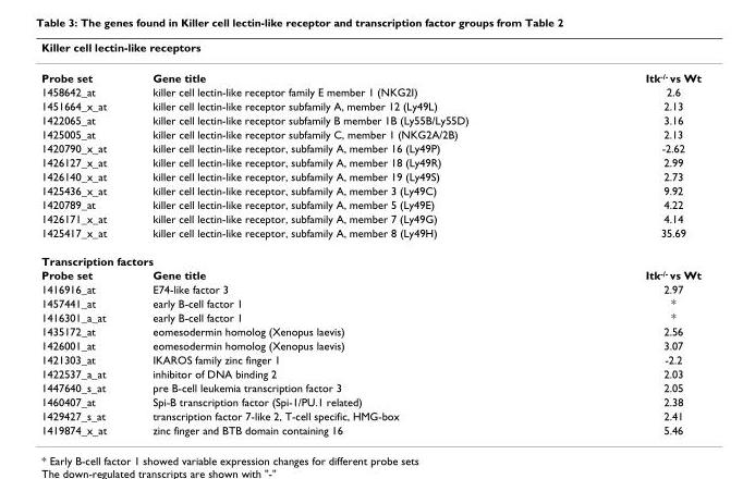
<table><thead><tr><td colspan="3">Killer cell lectin-like receptors</td></tr><tr><td>Probe set</td><td>Gene title</td><td>Itk<sup>-/-</sup> vs Wt</td></tr></thead><tbody><tr><td>1458642_at</td><td>killer cell lectin-like receptor family E member 1 (NKG2I)</td><td>2.6</td></tr><tr><td>1451664_x_at</td><td>killer cell lectin-like receptor subfamily A, member 12 (Ly49L)</td><td>2.13</td></tr><tr><td>1422065_at</td><td>killer cell lectin-like receptor subfamily B member 1B (Ly55B/Ly55D)</td><td>3.16</td></tr><tr><td>1425005_at</td><td>killer cell lectin-like receptor subfamily C, member 1 (NKG2A/2B)</td><td>2.13</td></tr><tr><td>1420790_x_at</td><td>killer cell lectin-like receptor, subfamily A, member 16 (Ly49P)</td><td>-2.62</td></tr><tr><td>1426127_x_at</td><td>killer cell lectin-like receptor, subfamily A, member 18 (Ly49R)</td><td>2.99</td></tr><tr><td>1426140_x_at</td><td>killer cell lectin-like receptor, subfamily A, member 19 (Ly49S)</td><td>2.73</td></tr><tr><td>1425436_x_at</td><td>killer cell lectin-like receptor, subfamily A, member 3 (Ly49C)</td><td>9.92</td></tr><tr><td>1420789_at</td><td>killer cell lectin-like receptor, subfamily A, member 5 (Ly49E)</td><td>4.22</td></tr><tr><td>1426171_x_at</td><td>killer cell lectin-like receptor, subfamily A, member 7 (Ly49G)</td><td>4.14</td></tr><tr><td>1425417_x_at</td><td>killer cell lectin-like receptor, subfamily A, member 8 (Ly49H)</td><td>35.69</td></tr><tr><td colspan="3">Transcription factors</td></tr><tr><td>Probe set</td><td>Gene title</td><td>Itk<sup>-/-</sup> vs Wt</td></tr><tr><td>1416916_at</td><td>E74-like factor 3</td><td>2.97</td></tr><tr><td>1457441_at</td><td>early B-cell factor 1</td><td>*</td></tr><tr><td>1416301_a_at</td><td>early B-cell factor 1</td><td>*</td></tr><tr><td>1435172_at</td><td>eomesodermin homolog (Xenopus laevis)</td><td>2.56</td></tr><tr><td>1426001_at</td><td>eomesodermin homolog (Xenopus laevis)</td><td>3.07</td></tr><tr><td>1421303_at</td><td>IKAROS family zinc finger 1</td><td>-2.2</td></tr><tr><td>1422537_a_at</td><td>inhibitor of DNA binding 2</td><td>2.03</td></tr><tr><td>1447640_s_at</td><td>pre B-cell leukemia transcription factor 3</td><td>2.05</td></tr><tr><td>1460407_at</td><td>Spi-B transcription factor (Spi-1/PU.1 related)</td><td>2.38</td></tr><tr><td>1429427_s_at</td><td>transcription factor 7-like 2, T-cell specific, HMG-box</td><td>2.41</td></tr><tr><td>1419874_x_at</td><td>zinc finger and BTB domain containing 16</td><td>5.46</td></tr></tbody></table>